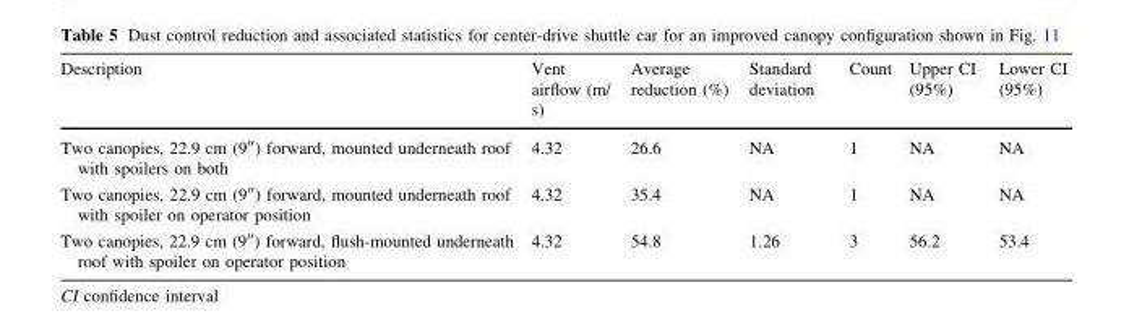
<table><thead><tr><td>Description</td><td>Vent airflow (m/ s)</td><td>Average reduction (%)</td><td>Standard deviation</td><td>Count</td><td>Upper CI (95%)</td><td>Lower CI (95%)</td></tr></thead><tbody><tr><td>Two canopies, 22.9 cm (900) forward, mounted underneath roof with spoilers on both</td><td>4.32</td><td>26.6</td><td>NA</td><td>1</td><td>NA</td><td>NA</td></tr><tr><td>Two canopies, 22.9 cm (900) forward, mounted underneath roof with spoiler on operator position</td><td>4.32</td><td>35.4</td><td>NA</td><td>1</td><td>NA</td><td>NA</td></tr><tr><td>Two canopies, 22.9 cm (900) forward, flush-mounted underneath roof with spoiler on operator position</td><td>4.32</td><td>54.8</td><td>1.26</td><td>3</td><td>56.2</td><td>53.4</td></tr></tbody></table>